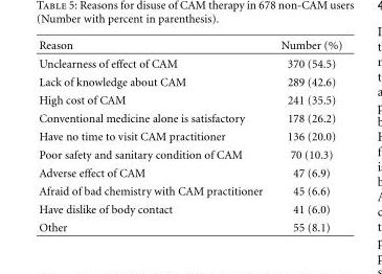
<table><thead><tr><td>Reason</td><td>Number (%)</td></tr></thead><tbody><tr><td>Unclearness of effect of CAM</td><td>370 (54.5)</td></tr><tr><td>Lack of knowledge about CAM</td><td>289 (42.6)</td></tr><tr><td>High cost of CAM</td><td>241 (35.5)</td></tr><tr><td>Conventional medicine alone is satisfactory</td><td>178 (26.2)</td></tr><tr><td>Have no time to visit CAM practitioner</td><td>136 (20.0)</td></tr><tr><td>Poor safety and sanitary condition of CAM</td><td>70 (10.3)</td></tr><tr><td>Adverse effect of CAM</td><td>47 (6.9)</td></tr><tr><td>Afraid of bad chemistry with CAM practitioner</td><td>45 (6.6)</td></tr><tr><td>Have dislike of body contact</td><td>41 (6.0)</td></tr><tr><td>Other</td><td>55 (8.1)</td></tr></tbody></table>